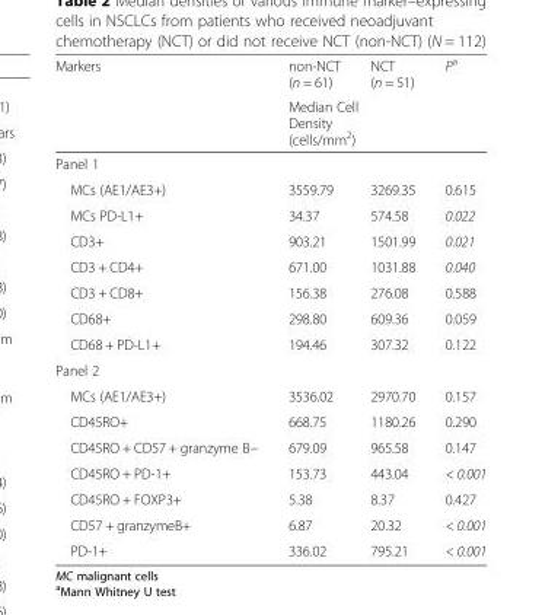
<table><thead><tr><td rowspan="2">Markers</td><td>non-NCT (n = 61)</td><td>NCT (n = 51)</td><td rowspan="2">P<sup>a</sup></td></tr><tr><td colspan="2">Median Cell Density (cells/mm<sup>2</sup>)</td></tr></thead><tbody><tr><td colspan="4">Panel 1</td></tr><tr><td>MCs (AE1/AE3+)</td><td>3559.79</td><td>3269.35</td><td>0.615</td></tr><tr><td>MCs PD-L1+</td><td>34.37</td><td>574.58</td><td>0.022</td></tr><tr><td>CD3+</td><td>903.21</td><td>1501.99</td><td>0.021</td></tr><tr><td>CD3 + CD4+</td><td>671.00</td><td>1031.88</td><td>0.040</td></tr><tr><td>CD3 + CD8+</td><td>156.38</td><td>276.08</td><td>0.588</td></tr><tr><td>CD68+</td><td>298.80</td><td>609.36</td><td>0.059</td></tr><tr><td>CD68 + PD-L1+</td><td>194.46</td><td>307.32</td><td>0.122</td></tr><tr><td colspan="4">Panel 2</td></tr><tr><td>MCs (AE1/AE3+)</td><td>3536.02</td><td>2970.70</td><td>0.157</td></tr><tr><td>CD45RO+</td><td>668.75</td><td>1180.26</td><td>0.290</td></tr><tr><td>CD45RO + CD57 + granzyme B−</td><td>679.09</td><td>965.58</td><td>0.147</td></tr><tr><td>CD45RO + PD-1+</td><td>153.73</td><td>443.04</td><td>&lt; 0.001</td></tr><tr><td>CD45RO + FOXP3+</td><td>5.38</td><td>8.37</td><td>0.427</td></tr><tr><td>CD57 + granzymeB+</td><td>6.87</td><td>20.32</td><td>&lt; 0.001</td></tr><tr><td>PD-1+</td><td>336.02</td><td>795.21</td><td>&lt; 0.001</td></tr></tbody></table>